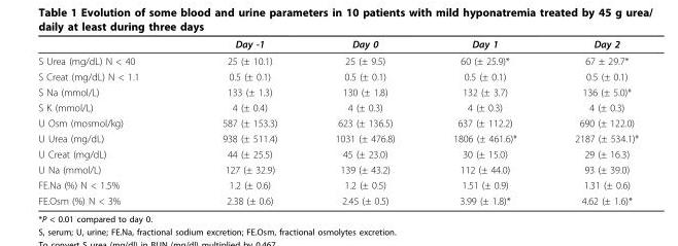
<table><thead><tr><td></td><td>Day -1</td><td>Day 0</td><td>Day 1</td><td>Day 2</td></tr></thead><tbody><tr><td>S Urea (mg/dL) N &lt; 40</td><td>25 (± 10.1)</td><td>25 (± 9.5)</td><td>60 (± 25.9)*</td><td>67 ± 29.7*</td></tr><tr><td>S Creat (mg/dL) N &lt; 1.1</td><td>0.5 (± 0.1)</td><td>0.5 (± 0.1)</td><td>0.5 (± 0.1)</td><td>0.5 (± 0.1)</td></tr><tr><td>S Na (mmol/L)</td><td>133 (± 1.3)</td><td>130 (± 1.8)</td><td>132 (± 3.7)</td><td>136 (± 5.0)*</td></tr><tr><td>S K (mmol/L)</td><td>4 (± 0.4)</td><td>4 (± 0.3)</td><td>4 (± 0.3)</td><td>4 (± 0.3)</td></tr><tr><td>U Osm (mosmol/kg)</td><td>587 (± 153.3)</td><td>623 (± 136.5)</td><td>637 (± 112.2)</td><td>690 (± 122.0)</td></tr><tr><td>U Urea (mg/dL)</td><td>938 (± 511.4)</td><td>1031 (± 476.8)</td><td>1806 (± 461.6)*</td><td>2187 (± 534.1)*</td></tr><tr><td>U Creat (mg/dL)</td><td>44 (± 25.5)</td><td>45 (± 23.0)</td><td>30 (± 15.0)</td><td>29 (± 16.3)</td></tr><tr><td>U Na (mmol/L)</td><td>127 (± 32.9)</td><td>139 (± 43.2)</td><td>112 (± 44.0)</td><td>93 (± 39.0)</td></tr><tr><td>FE.Na (%) N &lt; 1.5%</td><td>1.2 (± 0.6)</td><td>1.2 (± 0.5)</td><td>1.51 (± 0.9)</td><td>1.31 (± 0.6)</td></tr><tr><td>FE.Osm (%) N &lt; 3%</td><td>2.38 (± 0.6)</td><td>2.45 (± 0.5)</td><td>3.99 (± 1.8)*</td><td>4.62 (± 1.6)*</td></tr></tbody></table>